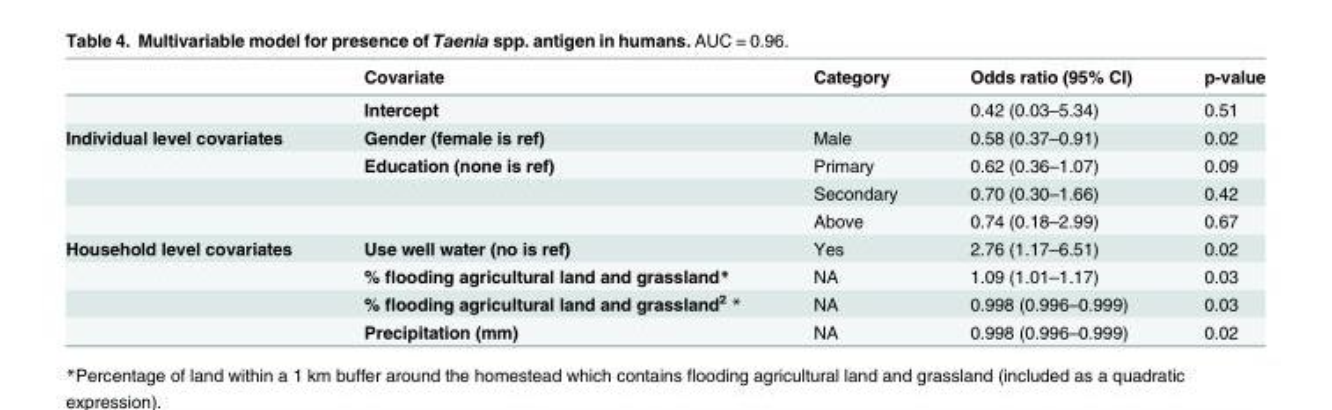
<table><thead><tr><td></td><td>Covariate</td><td>Category</td><td>Odds ratio (95% CI)</td><td>p-value</td></tr></thead><tbody><tr><td></td><td>Intercept</td><td></td><td>0.42 (0.03–5.34)</td><td>0.51</td></tr><tr><td rowspan="4">Individual level covariates</td><td>Gender (female is ref)</td><td>Male</td><td>0.58 (0.37–0.91)</td><td>0.02</td></tr><tr><td>Education (none is ref)</td><td>Primary</td><td>0.62 (0.36–1.07)</td><td>0.09</td></tr><tr><td></td><td>Secondary</td><td>0.70 (0.30–1.66)</td><td>0.42</td></tr><tr><td></td><td>Above</td><td>0.74 (0.18–2.99)</td><td>0.67</td></tr><tr><td rowspan="4">Household level covariates</td><td>Use well water (no is ref)</td><td>Yes</td><td>2.76 (1.17–6.51)</td><td>0.02</td></tr><tr><td>% flooding agricultural land and grassland*</td><td>NA</td><td>1.09 (1.01–1.17)</td><td>0.03</td></tr><tr><td>% flooding agricultural land and grassland<sup>2</sup> *</td><td>NA</td><td>0.998 (0.996–0.999)</td><td>0.03</td></tr><tr><td>Precipitation (mm)</td><td>NA</td><td>0.998 (0.996–0.999)</td><td>0.02</td></tr></tbody></table>